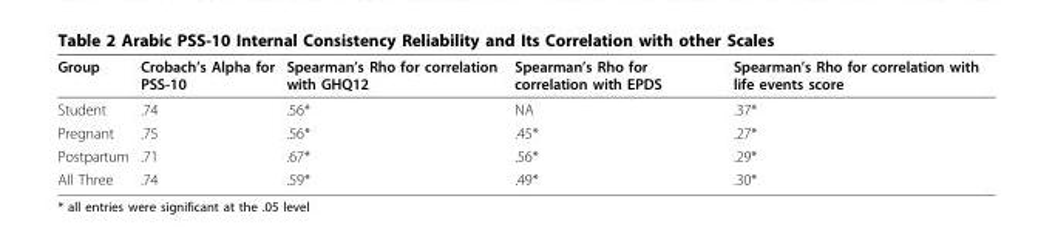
<table><thead><tr><td>Group</td><td>Crobach’s Alpha for PSS-10</td><td>Spearman’s Rho for correlation with GHQ12</td><td>Spearman’s Rho for correlation with EPDS</td><td>Spearman’s Rho for correlation with life events score</td></tr></thead><tbody><tr><td>Student</td><td>.74</td><td>.56*</td><td>NA</td><td>.37*</td></tr><tr><td>Pregnant</td><td>.75</td><td>.56*</td><td>.45*</td><td>.27*</td></tr><tr><td>Postpartum</td><td>.71</td><td>.67*</td><td>.56*</td><td>.29*</td></tr><tr><td>All Three</td><td>.74</td><td>.59*</td><td>.49*</td><td>.30*</td></tr></tbody></table>